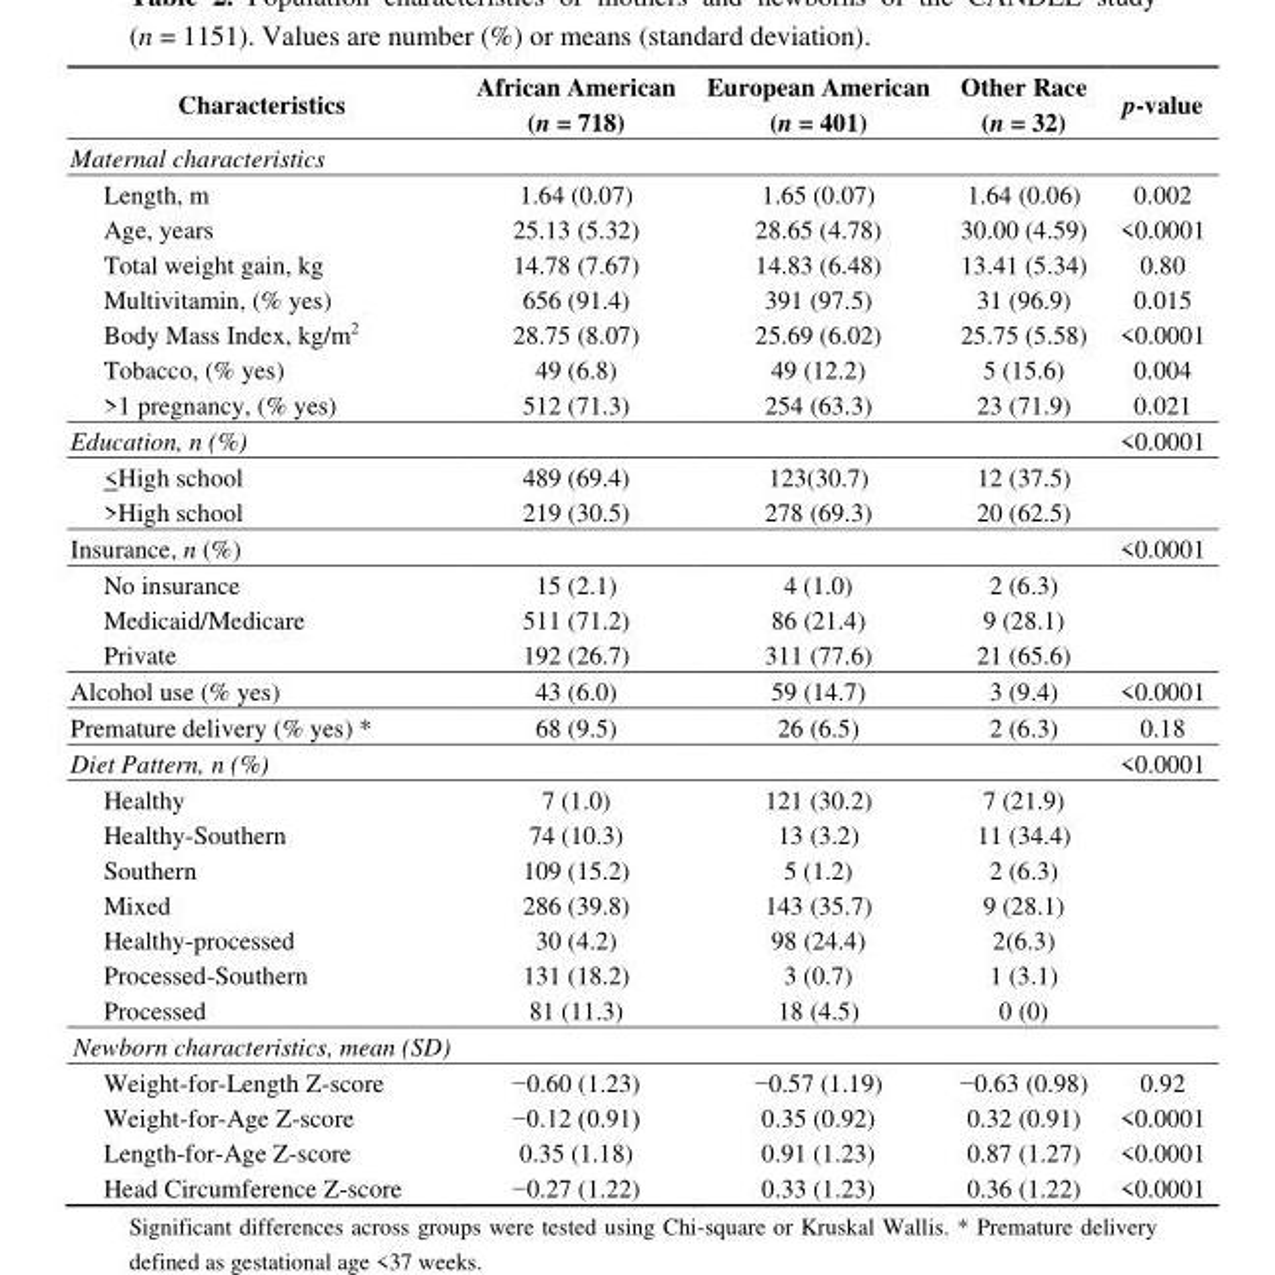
<table><thead><tr><td>Characteristics</td><td>African American (n = 718)</td><td>European American (n = 401)</td><td>Other Race (n = 32)</td><td>p-value</td></tr></thead><tbody><tr><td colspan="5">Maternal characteristics</td></tr><tr><td>Length, m</td><td>1.64 (0.07)</td><td>1.65 (0.07)</td><td>1.64 (0.06)</td><td>0.002</td></tr><tr><td>Age, years</td><td>25.13 (5.32)</td><td>28.65 (4.78)</td><td>30.00 (4.59)</td><td>&lt;0.0001</td></tr><tr><td>Total weight gain, kg</td><td>14.78 (7.67)</td><td>14.83 (6.48)</td><td>13.41 (5.34)</td><td>0.80</td></tr><tr><td>Multivitamin, (% yes)</td><td>656 (91.4)</td><td>391 (97.5)</td><td>31 (96.9)</td><td>0.015</td></tr><tr><td>Body Mass Index, kg/m<sup>2</sup></td><td>28.75 (8.07)</td><td>25.69 (6.02)</td><td>25.75 (5.58)</td><td>&lt;0.0001</td></tr><tr><td>Tobacco, (% yes)</td><td>49 (6.8)</td><td>49 (12.2)</td><td>5 (15.6)</td><td>0.004</td></tr><tr><td>&gt;1 pregnancy, (% yes)</td><td>512 (71.3)</td><td>254 (63.3)</td><td>23 (71.9)</td><td>0.021</td></tr><tr><td>Education, n (%)</td><td></td><td></td><td></td><td>&lt;0.0001</td></tr><tr><td>&lt;High school</td><td>489 (69.4)</td><td>123(30.7)</td><td>12 (37.5)</td><td></td></tr><tr><td>&gt;High school</td><td>219 (30.5)</td><td>278 (69.3)</td><td>20 (62.5)</td><td></td></tr><tr><td>Insurance, n (%)</td><td></td><td></td><td></td><td>&lt;0.0001</td></tr><tr><td>No insurance</td><td>15 (2.1)</td><td>4 (1.0)</td><td>2 (6.3)</td><td></td></tr><tr><td>Medicaid/Medicare</td><td>511 (71.2)</td><td>86 (21.4)</td><td>9 (28.1)</td><td></td></tr><tr><td>Private</td><td>192 (26.7)</td><td>311 (77.6)</td><td>21 (65.6)</td><td></td></tr><tr><td>Alcohol use (% yes)</td><td>43 (6.0)</td><td>59 (14.7)</td><td>3 (9.4)</td><td>&lt;0.0001</td></tr><tr><td>Premature delivery (% yes) *</td><td>68 (9.5)</td><td>26 (6.5)</td><td>2 (6.3)</td><td>0.18</td></tr><tr><td>Diet Pattern, n (%)</td><td></td><td></td><td></td><td>&lt;0.0001</td></tr><tr><td>Healthy</td><td>7 (1.0)</td><td>121 (30.2)</td><td>7 (21.9)</td><td></td></tr><tr><td>Healthy-Southern</td><td>74 (10.3)</td><td>13 (3.2)</td><td>11 (34.4)</td><td></td></tr><tr><td>Southern</td><td>109 (15.2)</td><td>5 (1.2)</td><td>2 (6.3)</td><td></td></tr><tr><td>Mixed</td><td>286 (39.8)</td><td>143 (35.7)</td><td>9 (28.1)</td><td></td></tr><tr><td>Healthy-processed</td><td>30 (4.2)</td><td>98 (24.4)</td><td>2(6.3)</td><td></td></tr><tr><td>Processed-Southern</td><td>131 (18.2)</td><td>3 (0.7)</td><td>1 (3.1)</td><td></td></tr><tr><td>Processed</td><td>81 (11.3)</td><td>18 (4.5)</td><td>0 (0)</td><td></td></tr><tr><td colspan="5">Newborn characteristics, mean (SD)</td></tr><tr><td>Weight-for-Length Z-score</td><td>−0.60 (1.23)</td><td>−0.57 (1.19)</td><td>−0.63 (0.98)</td><td>0.92</td></tr><tr><td>Weight-for-Age Z-score</td><td>−0.12 (0.91)</td><td>0.35 (0.92)</td><td>0.32 (0.91)</td><td>&lt;0.0001</td></tr><tr><td>Length-for-Age Z-score</td><td>0.35 (1.18)</td><td>0.91 (1.23)</td><td>0.87 (1.27)</td><td>&lt;0.0001</td></tr><tr><td>Head Circumference Z-score</td><td>−0.27 (1.22)</td><td>0.33 (1.23)</td><td>0.36 (1.22)</td><td>&lt;0.0001</td></tr></tbody></table>